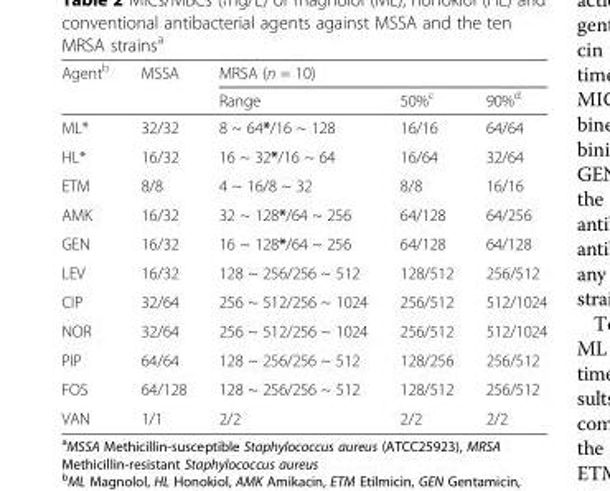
<table><thead><tr><td rowspan="2">Agent<sup>b</sup></td><td rowspan="2">MSSA</td><td colspan="3">MRSA (n = 10)</td></tr><tr><td>Range</td><td>50%<sup>c</sup></td><td>90%<sup>d</sup></td></tr></thead><tbody><tr><td>ML*</td><td>32/32</td><td>8 ~ 64*/16 ~ 128</td><td>16/16</td><td>64/64</td></tr><tr><td>HL*</td><td>16/32</td><td>16 ~ 32*/16 ~ 64</td><td>16/64</td><td>32/64</td></tr><tr><td>ETM</td><td>8/8</td><td>4 ~ 16/8 ~ 32</td><td>8/8</td><td>16/16</td></tr><tr><td>AMK</td><td>16/32</td><td>32 ~ 128*/64 ~ 256</td><td>64/128</td><td>64/256</td></tr><tr><td>GEN</td><td>16/32</td><td>16 ~ 128*/64 ~ 256</td><td>64/128</td><td>64/128</td></tr><tr><td>LEV</td><td>16/32</td><td>128 ~ 256/256 ~ 512</td><td>128/512</td><td>256/512</td></tr><tr><td>CIP</td><td>32/64</td><td>256 ~ 512/256 ~ 1024</td><td>256/512</td><td>512/1024</td></tr><tr><td>NOR</td><td>32/64</td><td>256 ~ 512/256 ~ 1024</td><td>256/512</td><td>512/1024</td></tr><tr><td>PIP</td><td>64/64</td><td>128 ~ 256/256 ~ 512</td><td>128/256</td><td>256/512</td></tr><tr><td>FOS</td><td>64/128</td><td>128 ~ 256/256 ~ 512</td><td>128/512</td><td>256/512</td></tr><tr><td>VAN</td><td>1/1</td><td>2/2</td><td>2/2</td><td>2/2</td></tr></tbody></table>